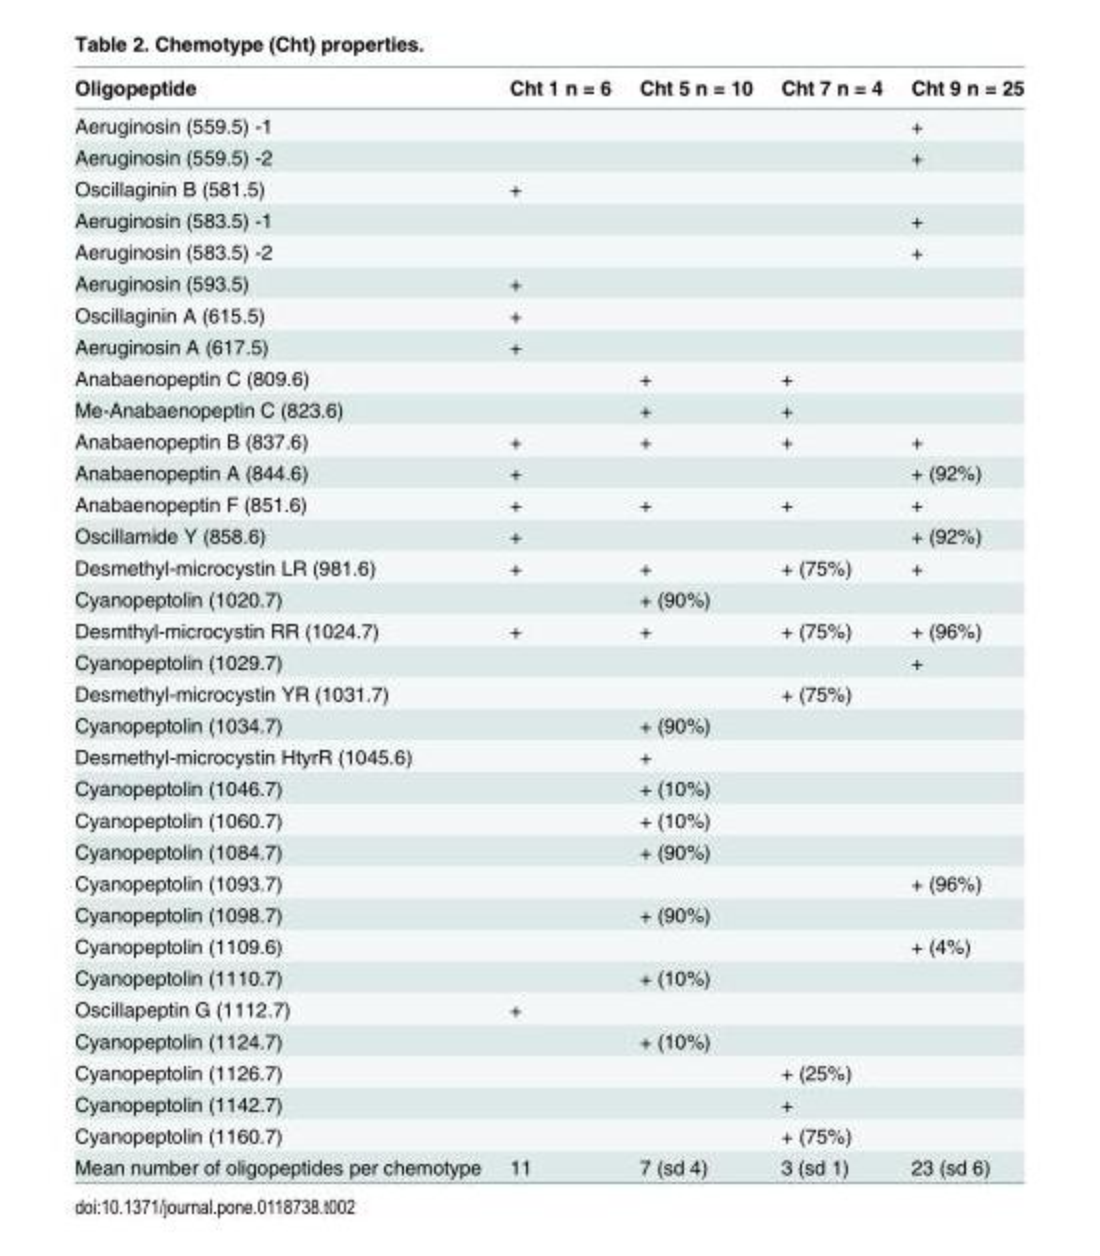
<table><thead><tr><td>Oligopeptide</td><td>Cht 1 n = 6</td><td>Cht 5 n = 10</td><td>Cht 7 n = 4</td><td>Cht 9 n = 25</td></tr></thead><tbody><tr><td>Aeruginosin (559.5) -1</td><td></td><td></td><td></td><td>+</td></tr><tr><td>Aeruginosin (559.5) -2</td><td></td><td></td><td></td><td>+</td></tr><tr><td>Oscillaginin B (581.5)</td><td>+</td><td></td><td></td><td></td></tr><tr><td>Aeruginosin (583.5) -1</td><td></td><td></td><td></td><td>+</td></tr><tr><td>Aeruginosin (583.5) -2</td><td></td><td></td><td></td><td>+</td></tr><tr><td>Aeruginosin (593.5)</td><td>+</td><td></td><td></td><td></td></tr><tr><td>Oscillaginin A (615.5)</td><td>+</td><td></td><td></td><td></td></tr><tr><td>Aeruginosin A (617.5)</td><td>+</td><td></td><td></td><td></td></tr><tr><td>Anabaenopeptin C (809.6)</td><td></td><td>+</td><td>+</td><td></td></tr><tr><td>Me-Anabaenopeptin C (823.6)</td><td></td><td>+</td><td>+</td><td></td></tr><tr><td>Anabaenopeptin B (837.6)</td><td>+</td><td>+</td><td>+</td><td>+</td></tr><tr><td>Anabaenopeptin A (844.6)</td><td>+</td><td></td><td></td><td>+ (92%)</td></tr><tr><td>Anabaenopeptin F (851.6)</td><td>+</td><td>+</td><td>+</td><td>+</td></tr><tr><td>Oscillamide Y (858.6)</td><td>+</td><td></td><td></td><td>+ (92%)</td></tr><tr><td>Desmethyl-microcystin LR (981.6)</td><td>+</td><td>+</td><td>+ (75%)</td><td>+</td></tr><tr><td>Cyanopeptolin (1020.7)</td><td></td><td>+ (90%)</td><td></td><td></td></tr><tr><td>Desmthyl-microcystin RR (1024.7)</td><td>+</td><td>+</td><td>+ (75%)</td><td>+ (96%)</td></tr><tr><td>Cyanopeptolin (1029.7)</td><td></td><td></td><td></td><td>+</td></tr><tr><td>Desmethyl-microcystin YR (1031.7)</td><td></td><td></td><td>+ (75%)</td><td></td></tr><tr><td>Cyanopeptolin (1034.7)</td><td></td><td>+ (90%)</td><td></td><td></td></tr><tr><td>Desmethyl-microcystin HtyrR (1045.6)</td><td></td><td>+</td><td></td><td></td></tr><tr><td>Cyanopeptolin (1046.7)</td><td></td><td>+ (10%)</td><td></td><td></td></tr><tr><td>Cyanopeptolin (1060.7)</td><td></td><td>+ (10%)</td><td></td><td></td></tr><tr><td>Cyanopeptolin (1084.7)</td><td></td><td>+ (90%)</td><td></td><td></td></tr><tr><td>Cyanopeptolin (1093.7)</td><td></td><td></td><td></td><td>+ (96%)</td></tr><tr><td>Cyanopeptolin (1098.7)</td><td></td><td>+ (90%)</td><td></td><td></td></tr><tr><td>Cyanopeptolin (1109.6)</td><td></td><td></td><td></td><td>+ (4%)</td></tr><tr><td>Cyanopeptolin (1110.7)</td><td></td><td>+ (10%)</td><td></td><td></td></tr><tr><td>Oscillapeptin G (1112.7)</td><td>+</td><td></td><td></td><td></td></tr><tr><td>Cyanopeptolin (1124.7)</td><td></td><td>+ (10%)</td><td></td><td></td></tr><tr><td>Cyanopeptolin (1126.7)</td><td></td><td></td><td>+ (25%)</td><td></td></tr><tr><td>Cyanopeptolin (1142.7)</td><td></td><td></td><td>+</td><td></td></tr><tr><td>Cyanopeptolin (1160.7)</td><td></td><td></td><td>+ (75%)</td><td></td></tr><tr><td>Mean number of oligopeptides per chemotype</td><td>11</td><td>7 (sd 4)</td><td>3 (sd 1)</td><td>23 (sd 6)</td></tr></tbody></table>